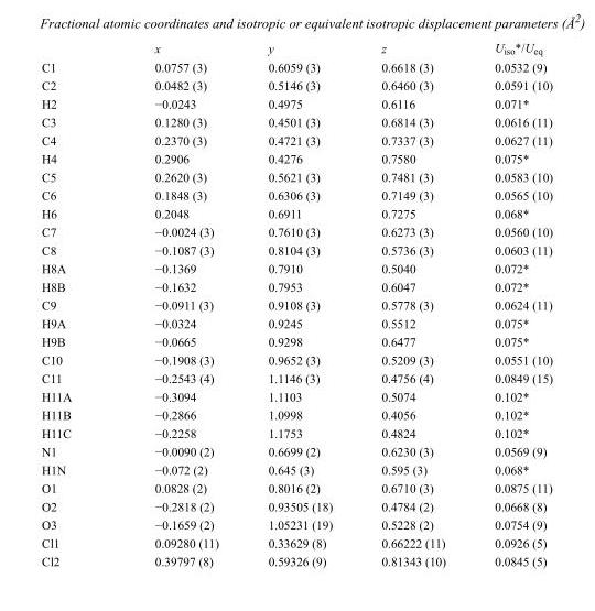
<table><thead><tr><td></td><td>x</td><td>y</td><td>z</td><td>U<sub>iso</sub>*/U<sub>eq</sub></td></tr></thead><tbody><tr><td>C1</td><td>0.0757 (3)</td><td>0.6059 (3)</td><td>0.6618 (3)</td><td>0.0532 (9)</td></tr><tr><td>C2</td><td>0.0482 (3)</td><td>0.5146 (3)</td><td>0.6460 (3)</td><td>0.0591 (10)</td></tr><tr><td>H2</td><td>−0.0243</td><td>0.4975</td><td>0.6116</td><td>0.071*</td></tr><tr><td>C3</td><td>0.1280 (3)</td><td>0.4501 (3)</td><td>0.6814 (3)</td><td>0.0616 (11)</td></tr><tr><td>C4</td><td>0.2370 (3)</td><td>0.4721 (3)</td><td>0.7337 (3)</td><td>0.0627 (11)</td></tr><tr><td>H4</td><td>0.2906</td><td>0.4276</td><td>0.7580</td><td>0.075*</td></tr><tr><td>C5</td><td>0.2620 (3)</td><td>0.5621 (3)</td><td>0.7481 (3)</td><td>0.0583 (10)</td></tr><tr><td>C6</td><td>0.1848 (3)</td><td>0.6306 (3)</td><td>0.7149 (3)</td><td>0.0565 (10)</td></tr><tr><td>H6</td><td>0.2048</td><td>0.6911</td><td>0.7275</td><td>0.068*</td></tr><tr><td>C7</td><td>−0.0024 (3)</td><td>0.7610 (3)</td><td>0.6273 (3)</td><td>0.0560 (10)</td></tr><tr><td>C8</td><td>−0.1087 (3)</td><td>0.8104 (3)</td><td>0.5736 (3)</td><td>0.0603 (11)</td></tr><tr><td>H8A</td><td>−0.1369</td><td>0.7910</td><td>0.5040</td><td>0.072*</td></tr><tr><td>H8B</td><td>−0.1632</td><td>0.7953</td><td>0.6047</td><td>0.072*</td></tr><tr><td>C9</td><td>−0.0911 (3)</td><td>0.9108 (3)</td><td>0.5778 (3)</td><td>0.0624 (11)</td></tr><tr><td>H9A</td><td>−0.0324</td><td>0.9245</td><td>0.5512</td><td>0.075*</td></tr><tr><td>H9B</td><td>−0.0665</td><td>0.9298</td><td>0.6477</td><td>0.075*</td></tr><tr><td>C10</td><td>−0.1908 (3)</td><td>0.9652 (3)</td><td>0.5209 (3)</td><td>0.0551 (10)</td></tr><tr><td>C11</td><td>−0.2543 (4)</td><td>1.1146 (3)</td><td>0.4756 (4)</td><td>0.0849 (15)</td></tr><tr><td>H11A</td><td>−0.3094</td><td>1.1103</td><td>0.5074</td><td>0.102*</td></tr><tr><td>H11B</td><td>−0.2866</td><td>1.0998</td><td>0.4056</td><td>0.102*</td></tr><tr><td>H11C</td><td>−0.2258</td><td>1.1753</td><td>0.4824</td><td>0.102*</td></tr><tr><td>N1</td><td>−0.0090 (2)</td><td>0.6699 (2)</td><td>0.6230 (3)</td><td>0.0569 (9)</td></tr><tr><td>H1N</td><td>−0.072 (2)</td><td>0.645 (3)</td><td>0.595 (3)</td><td>0.068*</td></tr><tr><td>O1</td><td>0.0828 (2)</td><td>0.8016 (2)</td><td>0.6710 (3)</td><td>0.0875 (11)</td></tr><tr><td>O2</td><td>−0.2818 (2)</td><td>0.93505 (18)</td><td>0.4784 (2)</td><td>0.0668 (8)</td></tr><tr><td>O3</td><td>−0.1659 (2)</td><td>1.05231 (19)</td><td>0.5228 (2)</td><td>0.0754 (9)</td></tr><tr><td>Cl1</td><td>0.09280 (11)</td><td>0.33629 (8)</td><td>0.66222 (11)</td><td>0.0926 (5)</td></tr><tr><td>Cl2</td><td>0.39797 (8)</td><td>0.59326 (9)</td><td>0.81343 (10)</td><td>0.0845 (5)</td></tr></tbody></table>